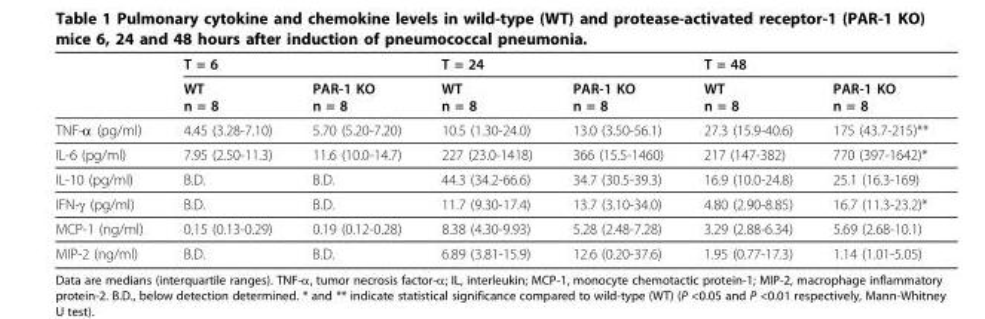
<table><thead><tr><td rowspan="2"></td><td colspan="2">T = 6</td><td colspan="2">T = 24</td><td colspan="2">T = 48</td></tr><tr><td>WT n = 8</td><td>PAR-1 KO n = 8</td><td>WT n = 8</td><td>PAR-1 KO n = 8</td><td>WT n = 8</td><td>PAR-1 KO n = 8</td></tr></thead><tbody><tr><td>TNF-α (pg/ml)</td><td>4.45 (3.28-7.10)</td><td>5.70 (5.20-7.20)</td><td>10.5 (1.30-24.0)</td><td>13.0 (3.50-56.1)</td><td>27.3 (15.9-40.6)</td><td>175 (43.7-215)**</td></tr><tr><td>IL-6 (pg/ml)</td><td>7.95 (2.50-11.3)</td><td>11.6 (10.0-14.7)</td><td>227 (23.0-1418)</td><td>366 (15.5-1460)</td><td>217 (147-382)</td><td>770 (397-1642)*</td></tr><tr><td>IL-10 (pg/ml)</td><td>B.D.</td><td>B.D.</td><td>44.3 (34.2-66.6)</td><td>34.7 (30.5-39.3)</td><td>16.9 (10.0-24.8)</td><td>25.1 (16.3-169)</td></tr><tr><td>IFN-γ (pg/ml)</td><td>B.D.</td><td>B.D.</td><td>11.7 (9.30-17.4)</td><td>13.7 (3.10-34.0)</td><td>4.80 (2.90-8.85)</td><td>16.7 (11.3-23.2)*</td></tr><tr><td>MCP-1 (ng/ml)</td><td>0.15 (0.13-0.29)</td><td>0.19 (0.12-0.28)</td><td>8.38 (4.30-9.93)</td><td>5.28 (2.48-7.28)</td><td>3.29 (2.88-6.34)</td><td>5.69 (2.68-10.1)</td></tr><tr><td>MIP-2 (ng/ml)</td><td>B.D.</td><td>B.D.</td><td>6.89 (3.81-15.9)</td><td>12.6 (0.20-37.6)</td><td>1.95 (0.77-17.3)</td><td>1.14 (1.01-5.05)</td></tr></tbody></table>